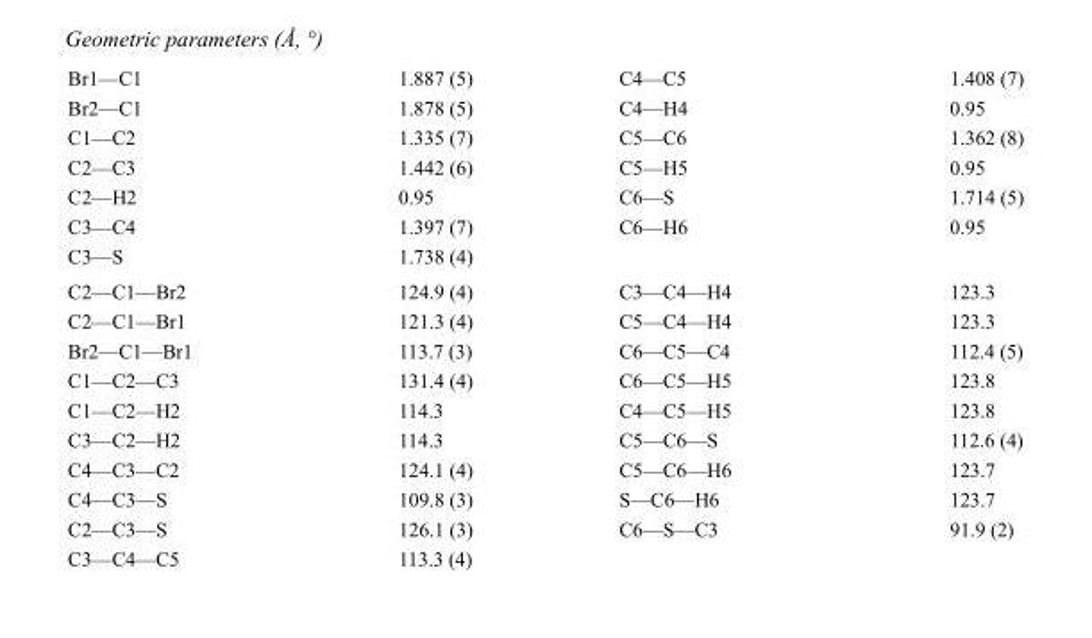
<table><tbody><tr><td>Br1—C1</td><td>1.887 (5)</td><td>C4—C5</td><td>1.408 (7)</td></tr><tr><td>Br2—C1</td><td>1.878 (5)</td><td>C4—H4</td><td>0.95</td></tr><tr><td>C1—C2</td><td>1.335 (7)</td><td>C5—C6</td><td>1.362 (8)</td></tr><tr><td>C2—C3</td><td>1.442 (6)</td><td>C5—H5</td><td>0.95</td></tr><tr><td>C2—H2</td><td>0.95</td><td>C6—S</td><td>1.714 (5)</td></tr><tr><td>C3—C4</td><td>1.397 (7)</td><td>C6—H6</td><td>0.95</td></tr><tr><td>C3—S</td><td>1.738 (4)</td><td></td><td></td></tr><tr><td>C2—C1—Br2</td><td>124.9 (4)</td><td>C3—C4—H4</td><td>123.3</td></tr><tr><td>C2—C1—Br1</td><td>121.3 (4)</td><td>C5—C4—H4</td><td>123.3</td></tr><tr><td>Br2—C1—Br1</td><td>113.7 (3)</td><td>C6—C5—C4</td><td>112.4 (5)</td></tr><tr><td>C1—C2—C3</td><td>131.4 (4)</td><td>C6—C5—H5</td><td>123.8</td></tr><tr><td>C1—C2—H2</td><td>114.3</td><td>C4—C5—H5</td><td>123.8</td></tr><tr><td>C3—C2—H2</td><td>114.3</td><td>C5—C6—S</td><td>112.6 (4)</td></tr><tr><td>C4—C3—C2</td><td>124.1 (4)</td><td>C5—C6—H6</td><td>123.7</td></tr><tr><td>C4—C3—S</td><td>109.8 (3)</td><td>S—C6—H6</td><td>123.7</td></tr><tr><td>C2—C3—S</td><td>126.1 (3)</td><td>C6—S—C3</td><td>91.9 (2)</td></tr><tr><td>C3—C4—C5</td><td>113.3 (4)</td><td></td><td></td></tr></tbody></table>